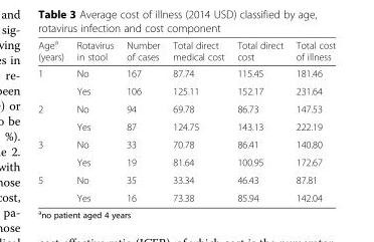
<table><thead><tr><td>Age<sup>a</sup> (years)</td><td>Rotavirus in stool</td><td>Number of cases</td><td>Total direct medical cost</td><td>Total direct cost</td><td>Total cost of illness</td></tr></thead><tbody><tr><td rowspan="2">1</td><td>No</td><td>167</td><td>87.74</td><td>115.45</td><td>181.46</td></tr><tr><td>Yes</td><td>106</td><td>125.11</td><td>152.17</td><td>231.64</td></tr><tr><td rowspan="2">2</td><td>No</td><td>94</td><td>69.78</td><td>86.73</td><td>147.53</td></tr><tr><td>Yes</td><td>87</td><td>124.75</td><td>143.13</td><td>222.19</td></tr><tr><td rowspan="2">3</td><td>No</td><td>33</td><td>70.78</td><td>86.41</td><td>140.80</td></tr><tr><td>Yes</td><td>19</td><td>81.64</td><td>100.95</td><td>172.67</td></tr><tr><td rowspan="2">5</td><td>No</td><td>35</td><td>33.34</td><td>46.43</td><td>87.81</td></tr><tr><td>Yes</td><td>16</td><td>73.38</td><td>85.94</td><td>142.04</td></tr></tbody></table>